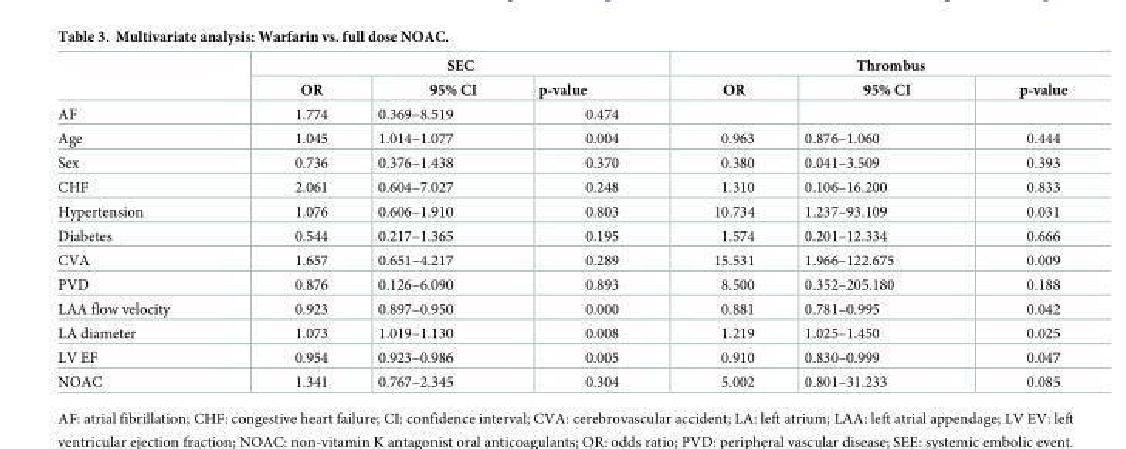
<table><thead><tr><td rowspan="2"></td><td colspan="3">SEC</td><td colspan="3">Thrombus</td></tr><tr><td>OR</td><td>95% CI</td><td>p-value</td><td>OR</td><td>95% CI</td><td>p-value</td></tr></thead><tbody><tr><td>AF</td><td>1.774</td><td>0.369–8.519</td><td>0.474</td><td></td><td></td><td></td></tr><tr><td>Age</td><td>1.045</td><td>1.014–1.077</td><td>0.004</td><td>0.963</td><td>0.876–1.060</td><td>0.444</td></tr><tr><td>Sex</td><td>0.736</td><td>0.376–1.438</td><td>0.370</td><td>0.380</td><td>0.041–3.509</td><td>0.393</td></tr><tr><td>CHF</td><td>2.061</td><td>0.604–7.027</td><td>0.248</td><td>1.310</td><td>0.106–16.200</td><td>0.833</td></tr><tr><td>Hypertension</td><td>1.076</td><td>0.606–1.910</td><td>0.803</td><td>10.734</td><td>1.237–93.109</td><td>0.031</td></tr><tr><td>Diabetes</td><td>0.544</td><td>0.217–1.365</td><td>0.195</td><td>1.574</td><td>0.201–12.334</td><td>0.666</td></tr><tr><td>CVA</td><td>1.657</td><td>0.651–4.217</td><td>0.289</td><td>15.531</td><td>1.966–122.675</td><td>0.009</td></tr><tr><td>PVD</td><td>0.876</td><td>0.126–6.090</td><td>0.893</td><td>8.500</td><td>0.352–205.180</td><td>0.188</td></tr><tr><td>LAA flow velocity</td><td>0.923</td><td>0.897–0.950</td><td>0.000</td><td>0.881</td><td>0.781–0.995</td><td>0.042</td></tr><tr><td>LA diameter</td><td>1.073</td><td>1.019–1.130</td><td>0.008</td><td>1.219</td><td>1.025–1.450</td><td>0.025</td></tr><tr><td>LV EF</td><td>0.954</td><td>0.923–0.986</td><td>0.005</td><td>0.910</td><td>0.830–0.999</td><td>0.047</td></tr><tr><td>NOAC</td><td>1.341</td><td>0.767–2.345</td><td>0.304</td><td>5.002</td><td>0.801–31.233</td><td>0.085</td></tr></tbody></table>